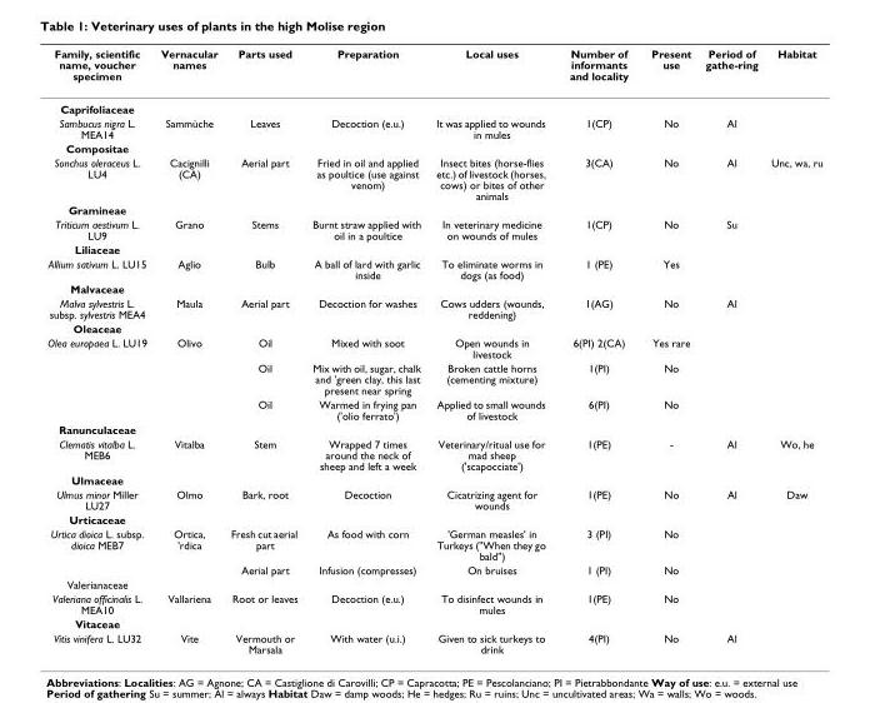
<table><thead><tr><td>Family, scientific name, voucher specimen</td><td>Vernacular names</td><td>Parts used</td><td>Preparation</td><td>Local uses</td><td>Number of informants and locality</td><td>Present use</td><td>Period of gathe-ring</td><td>Habitat</td></tr></thead><tbody><tr><td colspan="9">Caprifoliaceae</td></tr><tr><td>Sambucus nigra L. MEA14</td><td>Sammùche</td><td>Leaves</td><td>Decoction (e.u.)</td><td>It was applied to wounds in mules</td><td>1(CP)</td><td>No</td><td>Al</td><td></td></tr><tr><td colspan="9">Compositae</td></tr><tr><td>Sonchus oleraceus L. LU4</td><td>Cacignilli (CA)</td><td>Aerial part</td><td>Fried in oil and applied as poultice (use against venom)</td><td>Insect bites (horse-flies etc.) of livestock (horses, cows) or bites of other animals</td><td>3(CA)</td><td>No</td><td>Al</td><td>Unc, wa, ru</td></tr><tr><td colspan="9">Gramineae</td></tr><tr><td>Triticum aestivum L. LU9</td><td>Grano</td><td>Stems</td><td>Burnt straw applied with oil in a poultice</td><td>In veterinary medicine on wounds of mules</td><td>1(CP)</td><td>No</td><td>Su</td><td></td></tr><tr><td colspan="9">Liliaceae</td></tr><tr><td>Allium sativum L. LU15</td><td>Aglio</td><td>Bulb</td><td>A ball of lard with garlic inside</td><td>To eliminate worms in dogs (as food)</td><td>1 (PE)</td><td>Yes</td><td></td><td></td></tr><tr><td colspan="9">Malvaceae</td></tr><tr><td>Malva sylvestris L. subsp. sylvestris MEA4</td><td>Maula</td><td>Aerial part</td><td>Decoction for washes</td><td>Cows udders (wounds, reddening)</td><td>1(AG)</td><td>No</td><td>Al</td><td></td></tr><tr><td colspan="9">Oleaceae</td></tr><tr><td rowspan="3">Olea europaea L. LU19</td><td>Olivo</td><td>Oil</td><td>Mixed with soot</td><td>Open wounds in livestock</td><td>6(PI) 2(CA)</td><td>Yes rare</td><td></td><td></td></tr><tr><td></td><td>Oil</td><td>Mix with oil, sugar, chalk and &#x27;green clay, this last present near spring</td><td>Broken cattle horns (cementing mixture)</td><td>1(PI)</td><td>No</td><td></td><td></td></tr><tr><td></td><td>Oil</td><td>Warmed in frying pan (&#x27;olio ferrato&#x27;)</td><td>Applied to small wounds of livestock</td><td>6(PI)</td><td>No</td><td></td><td></td></tr><tr><td colspan="9">Ranunculaceae</td></tr><tr><td>Clematis vitalba L. MEB6</td><td>Vitalba</td><td>Stem</td><td>Wrapped 7 times around the neck of sheep and left a week</td><td>Veterinary/ritual use for mad sheep (&#x27;scapocciate&#x27;)</td><td>1(PE)</td><td>-</td><td>Al</td><td>Wo, he</td></tr><tr><td colspan="9">Ulmaceae</td></tr><tr><td>Ulmus minor Miller LU27</td><td>Olmo</td><td>Bark, root</td><td>Decoction</td><td>Cicatrizing agent for wounds</td><td>1(PE)</td><td>No</td><td>Al</td><td>Daw</td></tr><tr><td colspan="9">Urticaceae</td></tr><tr><td rowspan="2">Urtica dioica L. subsp. dioica MEB7</td><td>Ortica, &#x27;rdica</td><td>Fresh cut aerial part</td><td>As food with corn</td><td>&#x27;German measles&#x27; in Turkeys (&quot;When they go bald&quot;)</td><td>3 (PI)</td><td>No</td><td></td><td></td></tr><tr><td></td><td>Aerial part</td><td>Infusion (compresses)</td><td>On bruises</td><td>1 (PI)</td><td>No</td><td></td><td></td></tr><tr><td colspan="9">Valerianaceae</td></tr><tr><td>Valeriana officinalis L. MEA10</td><td>Vallariena</td><td>Root or leaves</td><td>Decoction (e.u.)</td><td>To disinfect wounds in mules</td><td>1(PE)</td><td>No</td><td></td><td></td></tr><tr><td colspan="9">Vitaceae</td></tr><tr><td>Vitis vinifera L. LU32</td><td>Vite</td><td>Vermouth or Marsala</td><td>With water (u.i.)</td><td>Given to sick turkeys to drink</td><td>4(PI)</td><td>No</td><td>Al</td><td></td></tr></tbody></table>